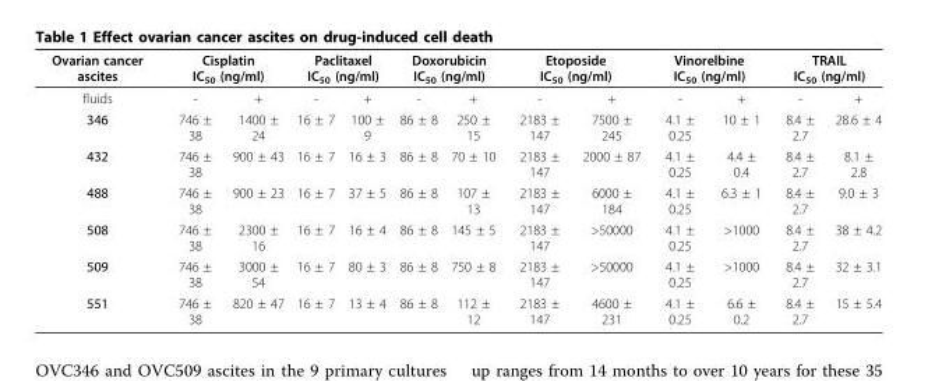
<table><thead><tr><td rowspan="2">Ovarian cancer ascites fluids</td><td colspan="2">Cisplatin IC<sub>50</sub> (ng/ml)</td><td colspan="2">Paclitaxel IC<sub>50</sub> (ng/ml)</td><td colspan="2">Doxorubicin IC<sub>50</sub> (ng/ml)</td><td colspan="2">Etoposide IC<sub>50</sub> (ng/ml)</td><td colspan="2">Vinorelbine IC<sub>50</sub> (ng/ml)</td><td colspan="2">TRAIL IC<sub>50</sub> (ng/ml)</td></tr><tr><td>-</td><td>+</td><td>-</td><td>+</td><td>-</td><td>+</td><td>-</td><td>+</td><td>-</td><td>+</td><td>-</td><td>+</td></tr></thead><tbody><tr><td>346</td><td>746 ± 38</td><td>1400 ± 24</td><td>16 ± 7</td><td>100 ± 9</td><td>86 ± 8</td><td>250 ± 15</td><td>2183 ± 147</td><td>7500 ± 245</td><td>4.1 ± 0.25</td><td>10 ± 1</td><td>8.4 ± 2.7</td><td>28.6 ± 4</td></tr><tr><td>432</td><td>746 ± 38</td><td>900 ± 43</td><td>16 ± 7</td><td>16 ± 3</td><td>86 ± 8</td><td>70 ± 10</td><td>2183 ± 147</td><td>2000 ± 87</td><td>4.1 ± 0.25</td><td>4.4 ± 0.4</td><td>8.4 ± 2.7</td><td>8.1 ± 2.8</td></tr><tr><td>488</td><td>746 ± 38</td><td>900 ± 23</td><td>16 ± 7</td><td>37 ± 5</td><td>86 ± 8</td><td>107 ± 13</td><td>2183 ± 147</td><td>6000 ± 184</td><td>4.1 ± 0.25</td><td>6.3 ± 1</td><td>8.4 ± 2.7</td><td>9.0 ± 3</td></tr><tr><td>508</td><td>746 ± 38</td><td>2300 ± 16</td><td>16 ± 7</td><td>16 ± 4</td><td>86 ± 8</td><td>145 ± 5</td><td>2183 ± 147</td><td>&gt;50000</td><td>4.1 ± 0.25</td><td>&gt;1000</td><td>8.4 ± 2.7</td><td>38 ± 4.2</td></tr><tr><td>509</td><td>746 ± 38</td><td>3000 ± 54</td><td>16 ± 7</td><td>80 ± 3</td><td>86 ± 8</td><td>750 ± 8</td><td>2183 ± 147</td><td>&gt;50000</td><td>4.1 ± 0.25</td><td>&gt;1000</td><td>8.4 ± 2.7</td><td>32 ± 3.1</td></tr><tr><td>551</td><td>746 ± 38</td><td>820 ± 47</td><td>16 ± 7</td><td>13 ± 4</td><td>86 ± 8</td><td>112 ± 12</td><td>2183 ± 147</td><td>4600 ± 231</td><td>4.1 ± 0.25</td><td>6.6 ± 0.2</td><td>8.4 ± 2.7</td><td>15 ± 5.4</td></tr></tbody></table>